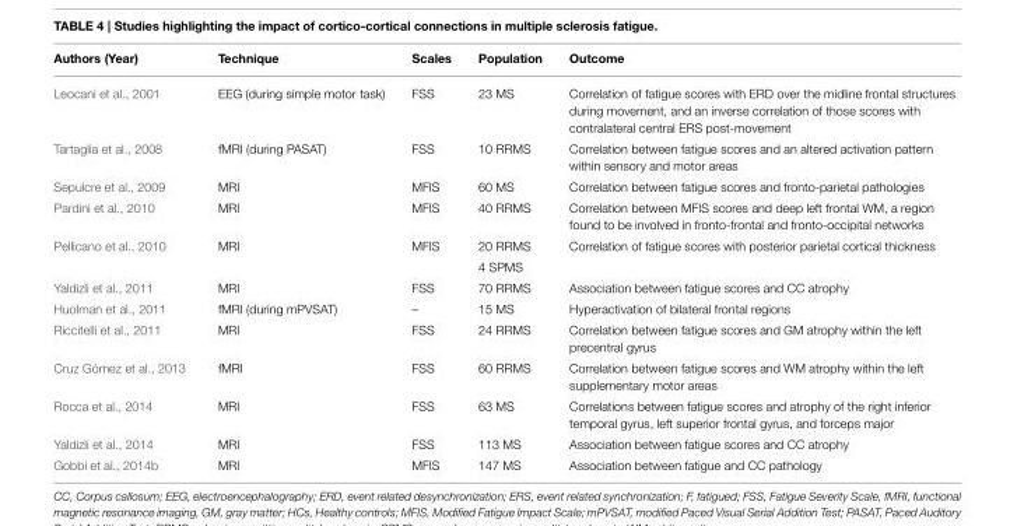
<table><thead><tr><td>Authors (Year)</td><td>Technique</td><td>Scales</td><td>Population</td><td>Outcome</td></tr></thead><tbody><tr><td>Leocani et al., 2001</td><td>EEG (during simple motor task)</td><td>FSS</td><td>23 MS</td><td>Correlation of fatigue scores with ERD over the midline frontal structures during movement, and an inverse correlation of those scores with contralateral central ERS post-movement</td></tr><tr><td>Tartaglia et al., 2008</td><td>fMRI (during PASAT)</td><td>FSS</td><td>10 RRMS</td><td>Correlation between fatigue scores and an altered activation pattern within sensory and motor areas</td></tr><tr><td>Sepulcre et al., 2009</td><td>MRI</td><td>MFIS</td><td>60 MS</td><td>Correlation between fatigue scores and fronto-parietal pathologies</td></tr><tr><td>Pardini et al., 2010</td><td>MRI</td><td>MFIS</td><td>40 RRMS</td><td>Correlation between MFIS scores and deep left frontal WM, a region found to be involved in fronto-frontal and fronto-occipital networks</td></tr><tr><td rowspan="2">Pellicano et al., 2010</td><td>MRI</td><td>MFIS</td><td>20 RRMS</td><td>Correlation of fatigue scores with posterior parietal cortical thickness</td></tr><tr><td></td><td></td><td>4 SPMS</td><td></td></tr><tr><td>Yaldizli et al., 2011</td><td>MRI</td><td>FSS</td><td>70 RRMS</td><td>Association between fatigue scores and CC atrophy</td></tr><tr><td>Huolman et al., 2011</td><td>fMRI (during mPVSAT)</td><td>–</td><td>15 MS</td><td>Hyperactivation of bilateral frontal regions</td></tr><tr><td>Riccitelli et al., 2011</td><td>MRI</td><td>FSS</td><td>24 RRMS</td><td>Correlation between fatigue scores and GM atrophy within the left precentral gyrus</td></tr><tr><td>Cruz Gómez et al., 2013</td><td>fMRI</td><td>FSS</td><td>60 RRMS</td><td>Correlation between fatigue scores and WM atrophy within the left supplementary motor areas</td></tr><tr><td>Rocca et al., 2014</td><td>MRI</td><td>FSS</td><td>63 MS</td><td>Correlations between fatigue scores and atrophy of the right inferior temporal gyrus, left superior frontal gyrus, and forceps major</td></tr><tr><td>Yaldizli et al., 2014</td><td>MRI</td><td>FSS</td><td>113 MS</td><td>Association between fatigue scores and CC atrophy</td></tr><tr><td>Gobbi et al., 2014b</td><td>MRI</td><td>MFIS</td><td>147 MS</td><td>Association between fatigue and CC pathology</td></tr></tbody></table>